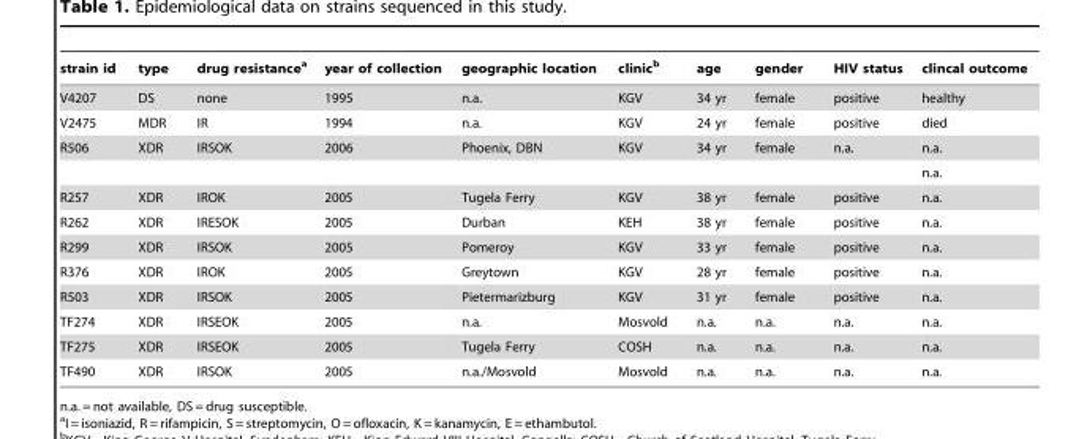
<table><thead><tr><td>strain id</td><td>type</td><td>drug resistance<sup>a</sup></td><td>year of collection</td><td>geographic location</td><td>clinic<sup>b</sup></td><td>age</td><td>gender</td><td>HIV status</td><td>clincal outcome</td></tr></thead><tbody><tr><td>V4207</td><td>DS</td><td>none</td><td>1995</td><td>n.a.</td><td>KGV</td><td>34 yr</td><td>female</td><td>positive</td><td>healthy</td></tr><tr><td>V2475</td><td>MDR</td><td>IR</td><td>1994</td><td>n.a.</td><td>KGV</td><td>24 yr</td><td>female</td><td>positive</td><td>died</td></tr><tr><td rowspan="2">R506</td><td>XDR</td><td>IRSOK</td><td>2006</td><td>Phoenix, DBN</td><td>KGV</td><td>34 yr</td><td>female</td><td>n.a.</td><td>n.a.</td></tr><tr><td></td><td></td><td></td><td></td><td></td><td></td><td></td><td></td><td>n.a.</td></tr><tr><td>R257</td><td>XDR</td><td>IROK</td><td>2005</td><td>Tugela Ferry</td><td>KGV</td><td>38 yr</td><td>female</td><td>positive</td><td>n.a.</td></tr><tr><td>R262</td><td>XDR</td><td>IRESOK</td><td>2005</td><td>Durban</td><td>KEH</td><td>38 yr</td><td>female</td><td>positive</td><td>n.a.</td></tr><tr><td>R299</td><td>XDR</td><td>IRSOK</td><td>2005</td><td>Pomeroy</td><td>KGV</td><td>33 yr</td><td>female</td><td>positive</td><td>n.a.</td></tr><tr><td>R376</td><td>XDR</td><td>IROK</td><td>2005</td><td>Greytown</td><td>KGV</td><td>28 yr</td><td>female</td><td>positive</td><td>n.a.</td></tr><tr><td>R503</td><td>XDR</td><td>IRSOK</td><td>2005</td><td>Pietermarizburg</td><td>KGV</td><td>31 yr</td><td>female</td><td>positive</td><td>n.a.</td></tr><tr><td>TF274</td><td>XDR</td><td>IRSEOK</td><td>2005</td><td>n.a.</td><td>Mosvold</td><td>n.a.</td><td>n.a.</td><td>n.a.</td><td>n.a.</td></tr><tr><td>TF275</td><td>XDR</td><td>IRSEOK</td><td>2005</td><td>Tugela Ferry</td><td>COSH</td><td>n.a.</td><td>n.a.</td><td>n.a.</td><td>n.a.</td></tr><tr><td>TF490</td><td>XDR</td><td>IRSOK</td><td>2005</td><td>n.a./Mosvold</td><td>Mosvold</td><td>n.a.</td><td>n.a.</td><td>n.a.</td><td>n.a.</td></tr></tbody></table>